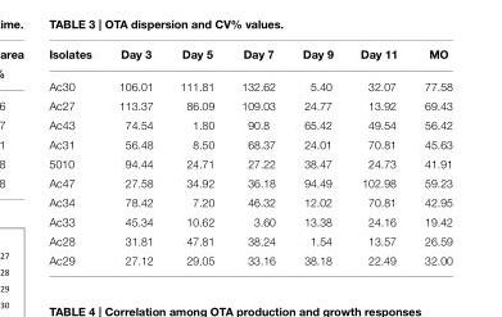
<table><thead><tr><td>Isolates</td><td>Day 3</td><td>Day 5</td><td>Day 7</td><td>Day 9</td><td>Day 11</td><td>MO</td></tr></thead><tbody><tr><td>Ac30</td><td>106.01</td><td>111.81</td><td>132.62</td><td>5.40</td><td>32.07</td><td>77.58</td></tr><tr><td>Ac27</td><td>113.37</td><td>86.09</td><td>109.03</td><td>24.77</td><td>13.92</td><td>69.43</td></tr><tr><td>Ac43</td><td>74.54</td><td>1.80</td><td>90.8</td><td>65.42</td><td>49.54</td><td>56.42</td></tr><tr><td>Ac31</td><td>56.48</td><td>8.50</td><td>68.37</td><td>24.01</td><td>70.81</td><td>45.63</td></tr><tr><td>5010</td><td>94.44</td><td>24.71</td><td>27.22</td><td>38.47</td><td>24.73</td><td>41.91</td></tr><tr><td>Ac47</td><td>27.58</td><td>34.92</td><td>36.18</td><td>94.49</td><td>102.98</td><td>59.23</td></tr><tr><td>Ac34</td><td>78.42</td><td>7.20</td><td>46.32</td><td>12.02</td><td>70.81</td><td>42.95</td></tr><tr><td>Ac33</td><td>45.34</td><td>10.62</td><td>3.60</td><td>13.38</td><td>24.16</td><td>19.42</td></tr><tr><td>Ac28</td><td>31.81</td><td>47.81</td><td>38.24</td><td>1.54</td><td>13.57</td><td>26.59</td></tr><tr><td>Ac29</td><td>27.12</td><td>29.05</td><td>33.16</td><td>38.18</td><td>22.49</td><td>32.00</td></tr></tbody></table>